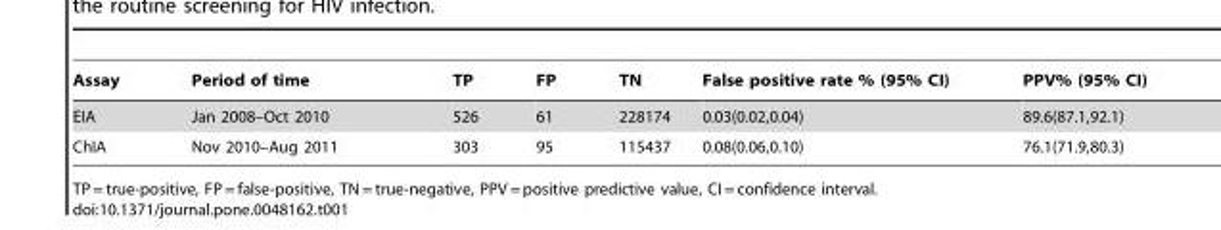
<table><thead><tr><td>Assay</td><td>Period of time</td><td>TP</td><td>FP</td><td>TN</td><td>False positive rate % (95% CI)</td><td>PPV% (95% CI)</td></tr></thead><tbody><tr><td>EIA</td><td>Jan 2008–Oct 2010</td><td>526</td><td>61</td><td>228174</td><td>0.03(0.02,0.04)</td><td>89.6(87.1,92.1)</td></tr><tr><td>ChIA</td><td>Nov 2010–Aug 2011</td><td>303</td><td>95</td><td>115437</td><td>0.08(0.06,0.10)</td><td>76.1(71.9,80.3)</td></tr></tbody></table>